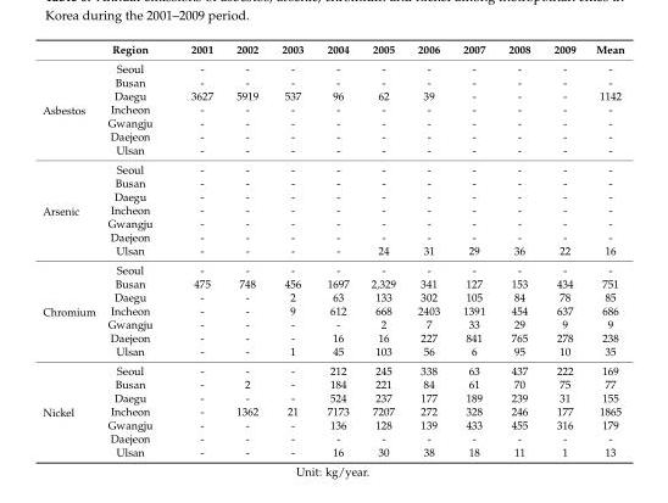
<table><thead><tr><td></td><td>Region</td><td>2001</td><td>2002</td><td>2003</td><td>2004</td><td>2005</td><td>2006</td><td>2007</td><td>2008</td><td>2009</td><td>Mean</td></tr></thead><tbody><tr><td rowspan="7">Asbestos</td><td>Seoul</td><td>-</td><td>-</td><td>-</td><td>-</td><td>-</td><td>-</td><td>-</td><td>-</td><td>-</td><td>-</td></tr><tr><td>Busan</td><td>-</td><td>-</td><td>-</td><td>-</td><td>-</td><td>-</td><td>-</td><td>-</td><td>-</td><td>-</td></tr><tr><td>Daegu</td><td>3627</td><td>5919</td><td>537</td><td>96</td><td>62</td><td>39</td><td>-</td><td>-</td><td>-</td><td>1142</td></tr><tr><td>Incheon</td><td>-</td><td>-</td><td>-</td><td>-</td><td>-</td><td>-</td><td>-</td><td>-</td><td>-</td><td>-</td></tr><tr><td>Gwangju</td><td>-</td><td>-</td><td>-</td><td>-</td><td>-</td><td>-</td><td>-</td><td>-</td><td>-</td><td>-</td></tr><tr><td>Daejeon</td><td>-</td><td>-</td><td>-</td><td>-</td><td>-</td><td>-</td><td>-</td><td>-</td><td>-</td><td>-</td></tr><tr><td>Ulsan</td><td>-</td><td>-</td><td>-</td><td>-</td><td>-</td><td>-</td><td>-</td><td>-</td><td>-</td><td>-</td></tr><tr><td rowspan="7">Arsenic</td><td>Seoul</td><td>-</td><td>-</td><td>-</td><td>-</td><td>-</td><td>-</td><td>-</td><td>-</td><td>-</td><td>-</td></tr><tr><td>Busan</td><td>-</td><td>-</td><td>-</td><td>-</td><td>-</td><td>-</td><td>-</td><td>-</td><td>-</td><td>-</td></tr><tr><td>Daegu</td><td>-</td><td>-</td><td>-</td><td>-</td><td>-</td><td>-</td><td>-</td><td>-</td><td>-</td><td>-</td></tr><tr><td>Incheon</td><td>-</td><td>-</td><td>-</td><td>-</td><td>-</td><td>-</td><td>-</td><td>-</td><td>-</td><td>-</td></tr><tr><td>Gwangju</td><td>-</td><td>-</td><td>-</td><td>-</td><td>-</td><td>-</td><td>-</td><td>-</td><td>-</td><td>-</td></tr><tr><td>Daejeon</td><td>-</td><td>-</td><td>-</td><td>-</td><td>-</td><td>-</td><td>-</td><td>-</td><td>-</td><td>-</td></tr><tr><td>Ulsan</td><td>-</td><td>-</td><td>-</td><td>-</td><td>24</td><td>31</td><td>29</td><td>36</td><td>22</td><td>16</td></tr><tr><td rowspan="7">Chromium</td><td>Seoul</td><td>-</td><td>-</td><td>-</td><td>-</td><td>-</td><td>-</td><td>-</td><td>-</td><td>-</td><td>-</td></tr><tr><td>Busan</td><td>475</td><td>748</td><td>456</td><td>1697</td><td>2,329</td><td>341</td><td>127</td><td>153</td><td>434</td><td>751</td></tr><tr><td>Daegu</td><td>-</td><td>-</td><td>2</td><td>63</td><td>133</td><td>302</td><td>105</td><td>84</td><td>78</td><td>85</td></tr><tr><td>Incheon</td><td>-</td><td>-</td><td>9</td><td>612</td><td>668</td><td>2403</td><td>1391</td><td>454</td><td>637</td><td>686</td></tr><tr><td>Gwangju</td><td>-</td><td>-</td><td>-</td><td>-</td><td>2</td><td>7</td><td>33</td><td>29</td><td>9</td><td>9</td></tr><tr><td>Daejeon</td><td>-</td><td>-</td><td>-</td><td>16</td><td>16</td><td>227</td><td>841</td><td>765</td><td>278</td><td>238</td></tr><tr><td>Ulsan</td><td>-</td><td>-</td><td>1</td><td>45</td><td>103</td><td>56</td><td>6</td><td>95</td><td>10</td><td>35</td></tr><tr><td rowspan="7">Nickel</td><td>Seoul</td><td>-</td><td>-</td><td>-</td><td>212</td><td>245</td><td>338</td><td>63</td><td>437</td><td>222</td><td>169</td></tr><tr><td>Busan</td><td>-</td><td>2</td><td>-</td><td>184</td><td>221</td><td>84</td><td>61</td><td>70</td><td>75</td><td>77</td></tr><tr><td>Daegu</td><td>-</td><td>-</td><td>-</td><td>524</td><td>237</td><td>177</td><td>189</td><td>239</td><td>31</td><td>155</td></tr><tr><td>Incheon</td><td>-</td><td>1362</td><td>21</td><td>7173</td><td>7207</td><td>272</td><td>328</td><td>246</td><td>177</td><td>1865</td></tr><tr><td>Gwangju</td><td>-</td><td>-</td><td>-</td><td>136</td><td>128</td><td>139</td><td>433</td><td>455</td><td>316</td><td>179</td></tr><tr><td>Daejeon</td><td>-</td><td>-</td><td>-</td><td>-</td><td>-</td><td>-</td><td>-</td><td>-</td><td>-</td><td>-</td></tr><tr><td>Ulsan</td><td>-</td><td>-</td><td>-</td><td>16</td><td>30</td><td>38</td><td>18</td><td>11</td><td>1</td><td>13</td></tr></tbody></table>